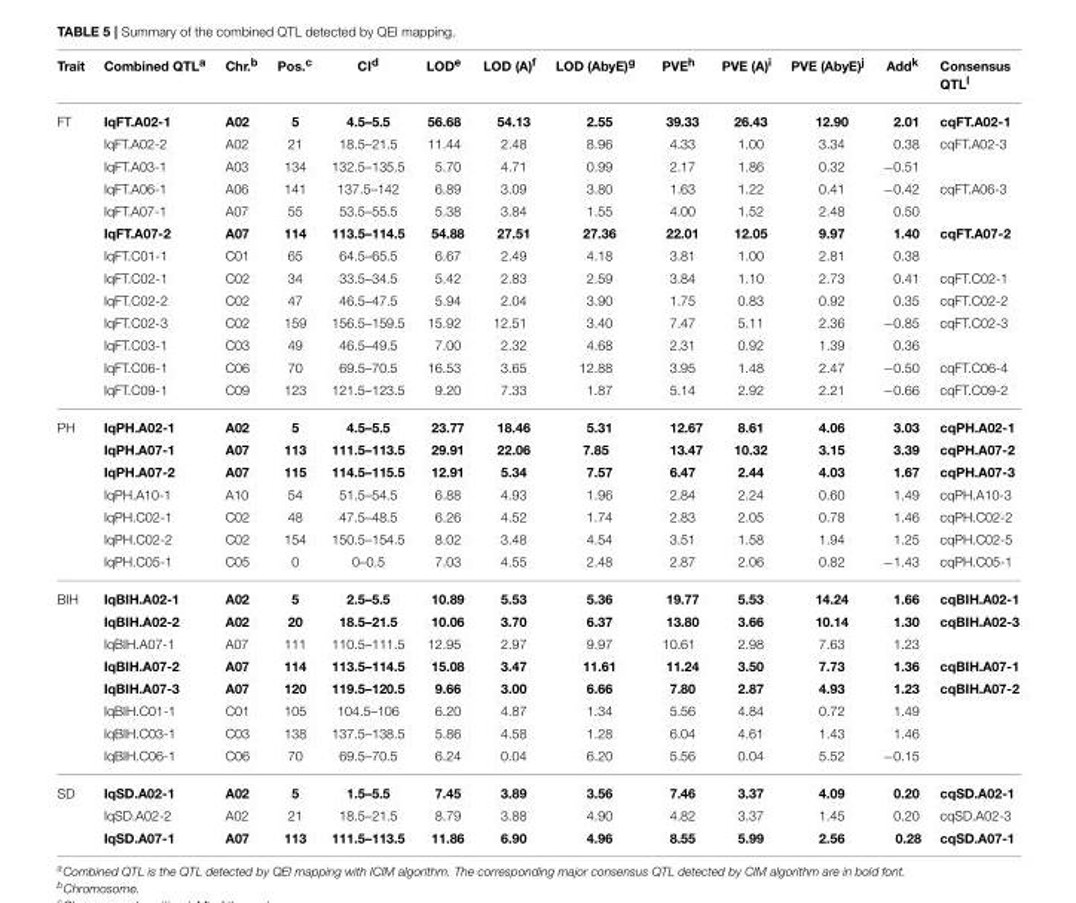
<table><thead><tr><td>Trait</td><td>Combined QTL<sup>a</sup></td><td>Chr.<sup>b</sup></td><td>Pos.<sup>c</sup></td><td>CI<sup>d</sup></td><td>LOD<sup>e</sup></td><td>LOD (A)<sup>f</sup></td><td>LOD (AbyE)<sup>g</sup></td><td>PVE<sup>h</sup></td><td>PVE (A)<sup>i</sup></td><td>PVE (AbyE)<sup>j</sup></td><td>Add<sup>k</sup></td><td>Consensus QTL<sup>l</sup></td></tr></thead><tbody><tr><td rowspan="13">FT</td><td>IqFT.A02-1</td><td>A02</td><td>5</td><td>4.5–5.5</td><td>56.68</td><td>54.13</td><td>2.55</td><td>39.33</td><td>26.43</td><td>12.90</td><td>2.01</td><td>cqFT.A02-1</td></tr><tr><td>IqFT.A02-2</td><td>A02</td><td>21</td><td>18.5–21.5</td><td>11.44</td><td>2.48</td><td>8.96</td><td>4.33</td><td>1.00</td><td>3.34</td><td>0.38</td><td>cqFT.A02-3</td></tr><tr><td>IqFT.A03-1</td><td>A03</td><td>134</td><td>132.5–135.5</td><td>5.70</td><td>4.71</td><td>0.99</td><td>2.17</td><td>1.86</td><td>0.32</td><td>−0.51</td><td></td></tr><tr><td>IqFT.A06-1</td><td>A06</td><td>141</td><td>137.5–142</td><td>6.89</td><td>3.09</td><td>3.80</td><td>1.63</td><td>1.22</td><td>0.41</td><td>−0.42</td><td>cqFT.A06-3</td></tr><tr><td>IqFT.A07-1</td><td>A07</td><td>55</td><td>53.5–55.5</td><td>5.38</td><td>3.84</td><td>1.55</td><td>4.00</td><td>1.52</td><td>2.48</td><td>0.50</td><td></td></tr><tr><td>IqFT.A07-2</td><td>A07</td><td>114</td><td>113.5–114.5</td><td>54.88</td><td>27.51</td><td>27.36</td><td>22.01</td><td>12.05</td><td>9.97</td><td>1.40</td><td>cqFT.A07-2</td></tr><tr><td>IqFT.C01-1</td><td>C01</td><td>65</td><td>64.5–65.5</td><td>6.67</td><td>2.49</td><td>4.18</td><td>3.81</td><td>1.00</td><td>2.81</td><td>0.38</td><td></td></tr><tr><td>IqFT.C02-1</td><td>C02</td><td>34</td><td>33.5–34.5</td><td>5.42</td><td>2.83</td><td>2.59</td><td>3.84</td><td>1.10</td><td>2.73</td><td>0.41</td><td>cqFT.C02-1</td></tr><tr><td>IqFT.C02-2</td><td>C02</td><td>47</td><td>46.5–47.5</td><td>5.94</td><td>2.04</td><td>3.90</td><td>1.75</td><td>0.83</td><td>0.92</td><td>0.35</td><td>cqFT.C02-2</td></tr><tr><td>IqFT.C02-3</td><td>C02</td><td>159</td><td>156.5–159.5</td><td>15.92</td><td>12.51</td><td>3.40</td><td>7.47</td><td>5.11</td><td>2.36</td><td>−0.85</td><td>cqFT.C02-3</td></tr><tr><td>IqFT.C03-1</td><td>C03</td><td>49</td><td>46.5–49.5</td><td>7.00</td><td>2.32</td><td>4.68</td><td>2.31</td><td>0.92</td><td>1.39</td><td>0.36</td><td></td></tr><tr><td>IqFT.C06-1</td><td>C06</td><td>70</td><td>69.5–70.5</td><td>16.53</td><td>3.65</td><td>12.88</td><td>3.95</td><td>1.48</td><td>2.47</td><td>−0.50</td><td>cqFT.C06-4</td></tr><tr><td>IqFT.C09-1</td><td>C09</td><td>123</td><td>121.5–123.5</td><td>9.20</td><td>7.33</td><td>1.87</td><td>5.14</td><td>2.92</td><td>2.21</td><td>−0.66</td><td>cqFT.C09-2</td></tr><tr><td rowspan="7">PH</td><td>IqPH.A02-1</td><td>A02</td><td>5</td><td>4.5–5.5</td><td>23.77</td><td>18.46</td><td>5.31</td><td>12.67</td><td>8.61</td><td>4.06</td><td>3.03</td><td>cqPH.A02-1</td></tr><tr><td>IqPH.A07-1</td><td>A07</td><td>113</td><td>111.5–113.5</td><td>29.91</td><td>22.06</td><td>7.85</td><td>13.47</td><td>10.32</td><td>3.15</td><td>3.39</td><td>cqPH.A07-2</td></tr><tr><td>IqPH.A07-2</td><td>A07</td><td>115</td><td>114.5–115.5</td><td>12.91</td><td>5.34</td><td>7.57</td><td>6.47</td><td>2.44</td><td>4.03</td><td>1.67</td><td>cqPH.A07-3</td></tr><tr><td>IqPH.A10-1</td><td>A10</td><td>54</td><td>51.5–54.5</td><td>6.88</td><td>4.93</td><td>1.96</td><td>2.84</td><td>2.24</td><td>0.60</td><td>1.49</td><td>cqPH.A10-3</td></tr><tr><td>IqPH.C02-1</td><td>C02</td><td>48</td><td>47.5–48.5</td><td>6.26</td><td>4.52</td><td>1.74</td><td>2.83</td><td>2.05</td><td>0.78</td><td>1.46</td><td>cqPH.C02-2</td></tr><tr><td>IqPH.C02-2</td><td>C02</td><td>154</td><td>150.5–154.5</td><td>8.02</td><td>3.48</td><td>4.54</td><td>3.51</td><td>1.58</td><td>1.94</td><td>1.25</td><td>cqPH.C02-5</td></tr><tr><td>IqPH.C05-1</td><td>C05</td><td>0</td><td>0–0.5</td><td>7.03</td><td>4.55</td><td>2.48</td><td>2.87</td><td>2.06</td><td>0.82</td><td>−1.43</td><td>cqPH.C05-1</td></tr><tr><td rowspan="8">BIH</td><td>IqBIH.A02-1</td><td>A02</td><td>5</td><td>2.5–5.5</td><td>10.89</td><td>5.53</td><td>5.36</td><td>19.77</td><td>5.53</td><td>14.24</td><td>1.66</td><td>cqBIH.A02-1</td></tr><tr><td>IqBIH.A02-2</td><td>A02</td><td>20</td><td>18.5–21.5</td><td>10.06</td><td>3.70</td><td>6.37</td><td>13.80</td><td>3.66</td><td>10.14</td><td>1.30</td><td>cqBIH.A02-3</td></tr><tr><td>IqBIH.A07-1</td><td>A07</td><td>111</td><td>110.5–111.5</td><td>12.95</td><td>2.97</td><td>9.97</td><td>10.61</td><td>2.98</td><td>7.63</td><td>1.23</td><td></td></tr><tr><td>IqBIH.A07-2</td><td>A07</td><td>114</td><td>113.5–114.5</td><td>15.08</td><td>3.47</td><td>11.61</td><td>11.24</td><td>3.50</td><td>7.73</td><td>1.36</td><td>cqBIH.A07-1</td></tr><tr><td>IqBIH.A07-3</td><td>A07</td><td>120</td><td>119.5–120.5</td><td>9.66</td><td>3.00</td><td>6.66</td><td>7.80</td><td>2.87</td><td>4.93</td><td>1.23</td><td>cqBIH.A07-2</td></tr><tr><td>IqBIH.C01-1</td><td>C01</td><td>105</td><td>104.5–106</td><td>6.20</td><td>4.87</td><td>1.34</td><td>5.56</td><td>4.84</td><td>0.72</td><td>1.49</td><td></td></tr><tr><td>IqBIH.C03-1</td><td>C03</td><td>138</td><td>137.5–138.5</td><td>5.86</td><td>4.58</td><td>1.28</td><td>6.04</td><td>4.61</td><td>1.43</td><td>1.46</td><td></td></tr><tr><td>IqBIH.C06-1</td><td>C06</td><td>70</td><td>69.5–70.5</td><td>6.24</td><td>0.04</td><td>6.20</td><td>5.56</td><td>0.04</td><td>5.52</td><td>−0.15</td><td></td></tr><tr><td rowspan="3">SD</td><td>IqSD.A02-1</td><td>A02</td><td>5</td><td>1.5–5.5</td><td>7.45</td><td>3.89</td><td>3.56</td><td>7.46</td><td>3.37</td><td>4.09</td><td>0.20</td><td>cqSD.A02-1</td></tr><tr><td>IqSD.A02-2</td><td>A02</td><td>21</td><td>18.5–21.5</td><td>8.79</td><td>3.88</td><td>4.90</td><td>4.82</td><td>3.37</td><td>1.45</td><td>0.20</td><td>cqSD.A02-3</td></tr><tr><td>IqSD.A07-1</td><td>A07</td><td>113</td><td>111.5–113.5</td><td>11.86</td><td>6.90</td><td>4.96</td><td>8.55</td><td>5.99</td><td>2.56</td><td>0.28</td><td>cqSD.A07-1</td></tr></tbody></table>